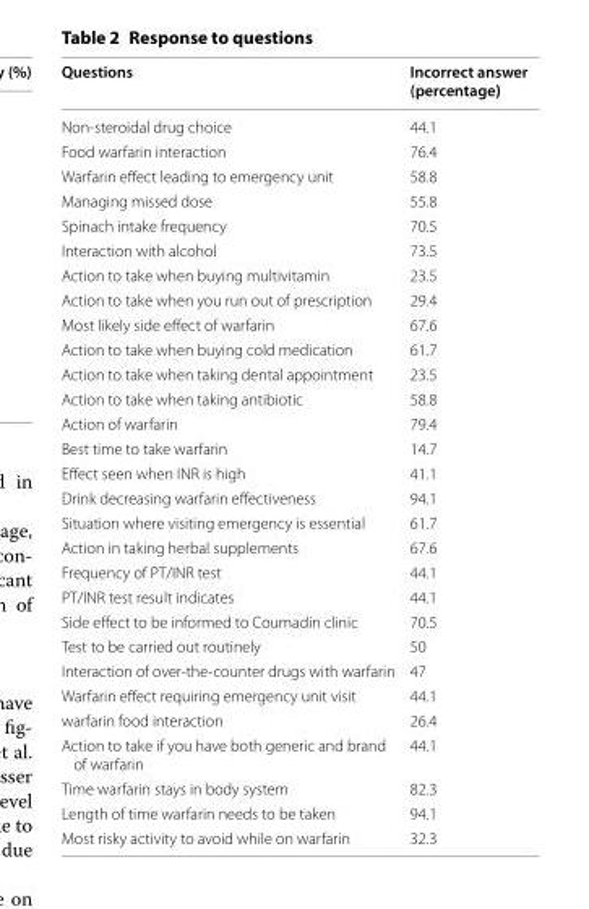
<table><thead><tr><td>Questions</td><td>Incorrect answer (percentage)</td></tr></thead><tbody><tr><td>Non-steroidal drug choice</td><td>44.1</td></tr><tr><td>Food warfarin interaction</td><td>76.4</td></tr><tr><td>Warfarin effect leading to emergency unit</td><td>58.8</td></tr><tr><td>Managing missed dose</td><td>55.8</td></tr><tr><td>Spinach intake frequency</td><td>70.5</td></tr><tr><td>Interaction with alcohol</td><td>73.5</td></tr><tr><td>Action to take when buying multivitamin</td><td>23.5</td></tr><tr><td>Action to take when you run out of prescription</td><td>29.4</td></tr><tr><td>Most likely side effect of warfarin</td><td>67.6</td></tr><tr><td>Action to take when buying cold medication</td><td>61.7</td></tr><tr><td>Action to take when taking dental appointment</td><td>23.5</td></tr><tr><td>Action to take when taking antibiotic</td><td>58.8</td></tr><tr><td>Action of warfarin</td><td>79.4</td></tr><tr><td>Best time to take warfarin</td><td>14.7</td></tr><tr><td>Effect seen when INR is high</td><td>41.1</td></tr><tr><td>Drink decreasing warfarin effectiveness</td><td>94.1</td></tr><tr><td>Situation where visiting emergency is essential</td><td>61.7</td></tr><tr><td>Action in taking herbal supplements</td><td>67.6</td></tr><tr><td>Frequency of PT/INR test</td><td>44.1</td></tr><tr><td>PT/INR test result indicates</td><td>44.1</td></tr><tr><td>Side effect to be informed to Coumadin clinic</td><td>70.5</td></tr><tr><td>Test to be carried out routinely</td><td>50</td></tr><tr><td>Interaction of over-the-counter drugs with warfarin</td><td>47</td></tr><tr><td>Warfarin effect requiring emergency unit visit</td><td>44.1</td></tr><tr><td>warfarin food interaction</td><td>26.4</td></tr><tr><td>Action to take if you have both generic and brand of warfarin</td><td>44.1</td></tr><tr><td>Time warfarin stays in body system</td><td>82.3</td></tr><tr><td>Length of time warfarin needs to be taken</td><td>94.1</td></tr><tr><td>Most risky activity to avoid while on warfarin</td><td>32.3</td></tr></tbody></table>